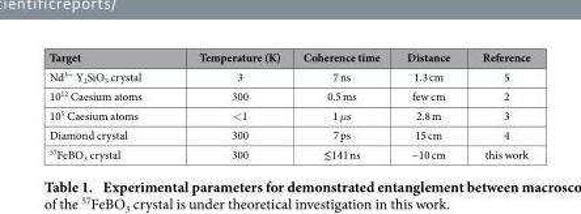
<table><thead><tr><td>Target</td><td>Temperature (K)</td><td>Coherence time</td><td>Distance</td><td>Reference</td></tr></thead><tbody><tr><td>Nd<sup>3+</sup> Y<sub>2</sub>SiO<sub>5</sub> crystal</td><td>3</td><td>7 ns</td><td>1.3 cm</td><td>5</td></tr><tr><td>10<sup>12</sup> Caesium atoms</td><td>300</td><td>0.5 ms</td><td>few cm</td><td>2</td></tr><tr><td>10<sup>5</sup> Caesium atoms</td><td>&lt; 1</td><td>1 μs</td><td>2.8 m</td><td>3</td></tr><tr><td>Diamond crystal</td><td>300</td><td>7 ps</td><td>15 cm</td><td>4</td></tr><tr><td><sup>57</sup>FeBO<sub>3</sub> crystal</td><td>300</td><td>≲ 141 ns</td><td>~10 cm</td><td>this work</td></tr></tbody></table>